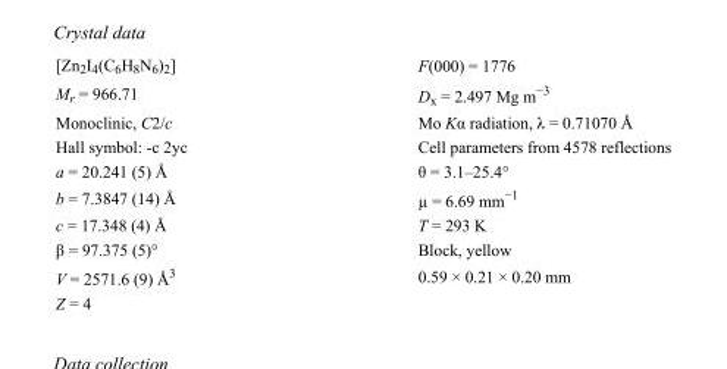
<table><tbody><tr><td>[Zn<sub>2</sub>I<sub>4</sub>(C<sub>6</sub>H<sub>8</sub>N<sub>6</sub>)<sub>2</sub>]</td><td>F(000) = 1776</td></tr><tr><td>M<sub>r</sub> = 966.71</td><td>D<sub>x</sub> = 2.497 Mg m<sup>−3</sup></td></tr><tr><td>Monoclinic, C2/c</td><td>Mo Kα radiation, λ = 0.71070 Å</td></tr><tr><td>Hall symbol: -c 2yc</td><td>Cell parameters from 4578 reflections</td></tr><tr><td>a = 20.241 (5) Å</td><td>θ = 3.1–25.4°</td></tr><tr><td>b = 7.3847 (14) Å</td><td>µ = 6.69 mm<sup>−1</sup></td></tr><tr><td>c = 17.348 (4) Å</td><td>T = 293 K</td></tr><tr><td>β = 97.375 (5)°</td><td>Block, yellow</td></tr><tr><td>V = 2571.6 (9) Å<sup>3</sup></td><td>0.59 × 0.21 × 0.20 mm</td></tr><tr><td>Z = 4</td><td></td></tr></tbody></table>